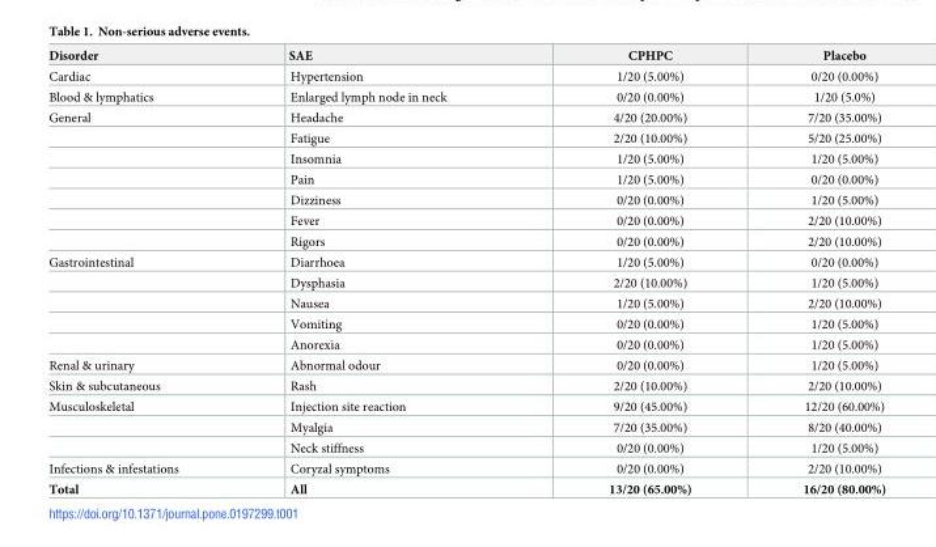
<table><thead><tr><td>Disorder</td><td>SAE</td><td>CPHPC</td><td>Placebo</td></tr></thead><tbody><tr><td>Cardiac</td><td>Hypertension</td><td>1/20 (5.00%)</td><td>0/20 (0.00%)</td></tr><tr><td>Blood &amp; lymphatics</td><td>Enlarged lymph node in neck</td><td>0/20 (0.00%)</td><td>1/20 (5.0%)</td></tr><tr><td rowspan="7">General</td><td>Headache</td><td>4/20 (20.00%)</td><td>7/20 (35.00%)</td></tr><tr><td>Fatigue</td><td>2/20 (10.00%)</td><td>5/20 (25.00%)</td></tr><tr><td>Insomnia</td><td>1/20 (5.00%)</td><td>1/20 (5.00%)</td></tr><tr><td>Pain</td><td>1/20 (5.00%)</td><td>0/20 (0.00%)</td></tr><tr><td>Dizziness</td><td>0/20 (0.00%)</td><td>1/20 (5.00%)</td></tr><tr><td>Fever</td><td>0/20 (0.00%)</td><td>2/20 (10.00%)</td></tr><tr><td>Rigors</td><td>0/20 (0.00%)</td><td>2/20 (10.00%)</td></tr><tr><td rowspan="5">Gastrointestinal</td><td>Diarrhoea</td><td>1/20 (5.00%)</td><td>0/20 (0.00%)</td></tr><tr><td>Dysphasia</td><td>2/20 (10.00%)</td><td>1/20 (5.00%)</td></tr><tr><td>Nausea</td><td>1/20 (5.00%)</td><td>2/20 (10.00%)</td></tr><tr><td>Vomiting</td><td>0/20 (0.00%)</td><td>1/20 (5.00%)</td></tr><tr><td>Anorexia</td><td>0/20 (0.00%)</td><td>1/20 (5.00%)</td></tr><tr><td>Renal &amp; urinary</td><td>Abnormal odour</td><td>0/20 (0.00%)</td><td>1/20 (5.00%)</td></tr><tr><td>Skin &amp; subcutaneous</td><td>Rash</td><td>2/20 (10.00%)</td><td>2/20 (10.00%)</td></tr><tr><td rowspan="3">Musculoskeletal</td><td>Injection site reaction</td><td>9/20 (45.00%)</td><td>12/20 (60.00%)</td></tr><tr><td>Myalgia</td><td>7/20 (35.00%)</td><td>8/20 (40.00%)</td></tr><tr><td>Neck stiffness</td><td>0/20 (0.00%)</td><td>1/20 (5.00%)</td></tr><tr><td>Infections &amp; infestations</td><td>Coryzal symptoms</td><td>0/20 (0.00%)</td><td>2/20 (10.00%)</td></tr><tr><td>Total</td><td>All</td><td>13/20 (65.00%)</td><td>16/20 (80.00%)</td></tr></tbody></table>